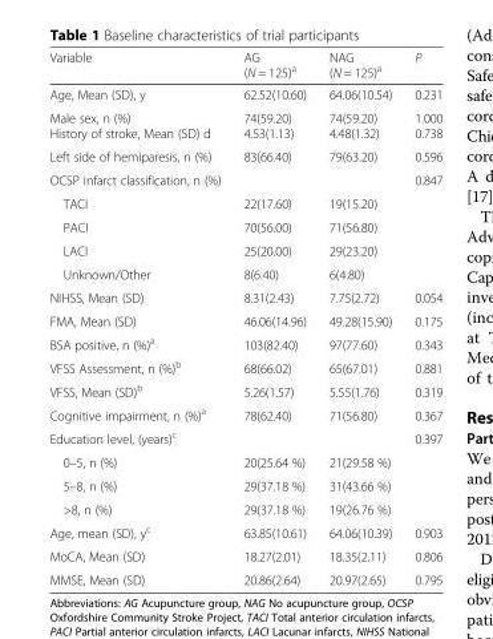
<table><thead><tr><td>Variable</td><td>AG (N = 125)<sup>a</sup></td><td>NAG (N = 125)<sup>a</sup></td><td>P</td></tr></thead><tbody><tr><td>Age, Mean (SD), y</td><td>62.52(10.60)</td><td>64.06(10.54)</td><td>0.231</td></tr><tr><td>Male sex, n (%) History of stroke, Mean (SD) d</td><td>74(59.20) 4.53(1.13)</td><td>74(59.20) 4.48(1.32)</td><td>1.000 0.738</td></tr><tr><td>Left side of hemiparesis, n (%)</td><td>83(66.40)</td><td>79(63.20)</td><td>0.596</td></tr><tr><td>OCSP infarct classification, n (%)</td><td></td><td></td><td>0.847</td></tr><tr><td>TACI</td><td>22(17.60)</td><td>19(15.20)</td><td></td></tr><tr><td>PACI</td><td>70(56.00)</td><td>71(56.80)</td><td></td></tr><tr><td>LACI</td><td>25(20.00)</td><td>29(23.20)</td><td></td></tr><tr><td>Unknown/Other</td><td>8(6.40)</td><td>6(4.80)</td><td></td></tr><tr><td>NIHSS, Mean (SD)</td><td>8.31(2.43)</td><td>7.75(2.72)</td><td>0.054</td></tr><tr><td>FMA, Mean (SD)</td><td>46.06(14.96)</td><td>49.28(15.90)</td><td>0.175</td></tr><tr><td>BSA positive, n (%)<sup>a</sup></td><td>103(82.40)</td><td>97(77.60)</td><td>0.343</td></tr><tr><td>VFSS Assessment, n (%)<sup>b</sup></td><td>68(66.02)</td><td>65(67.01)</td><td>0.881</td></tr><tr><td>VFSS, Mean (SD)<sup>b</sup></td><td>5.26(1.57)</td><td>5.55(1.76)</td><td>0.319</td></tr><tr><td>Cognitive impairment, n (%)<sup>a</sup></td><td>78(62.40)</td><td>71(56.80)</td><td>0.367</td></tr><tr><td>Education level, (years)<sup>c</sup></td><td></td><td></td><td>0.397</td></tr><tr><td>0–5, n (%)</td><td>20(25.64 %)</td><td>21(29.58 %)</td><td></td></tr><tr><td>5–8, n (%)</td><td>29(37.18 %)</td><td>31(43.66 %)</td><td></td></tr><tr><td>&gt;8, n (%)</td><td>29(37.18 %)</td><td>19(26.76 %)</td><td></td></tr><tr><td>Age, mean (SD), y<sup>c</sup></td><td>63.85(10.61)</td><td>64.06(10.39)</td><td>0.903</td></tr><tr><td>MoCA, Mean (SD)</td><td>18.27(2.01)</td><td>18.35(2.11)</td><td>0.806</td></tr><tr><td>MMSE, Mean (SD)</td><td>20.86(2.64)</td><td>20.97(2.65)</td><td>0.795</td></tr></tbody></table>